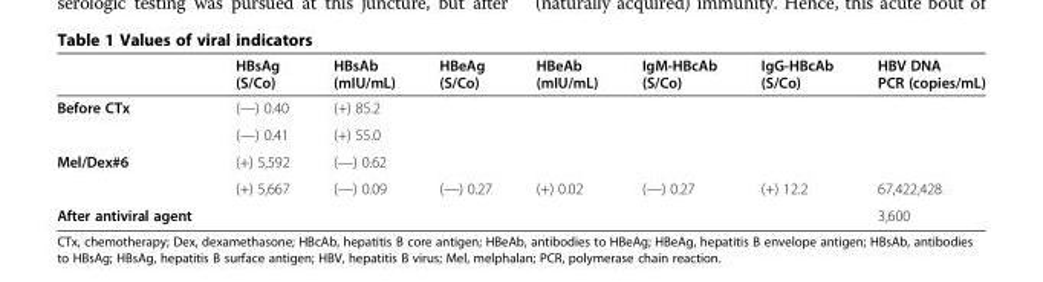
<table><thead><tr><td></td><td>HBsAg (S/Co)</td><td>HBsAb (mIU/mL)</td><td>HBeAg (S/Co)</td><td>HBeAb (mIU/mL)</td><td>IgM-HBcAb (S/Co)</td><td>IgG-HBcAb (S/Co)</td><td>HBV DNA PCR (copies/mL)</td></tr></thead><tbody><tr><td rowspan="2">Before CTx</td><td>(—) 0.40</td><td>(+) 85.2</td><td></td><td></td><td></td><td></td><td></td></tr><tr><td>(—) 0.41</td><td>(+) 55.0</td><td></td><td></td><td></td><td></td><td></td></tr><tr><td rowspan="2">Mel/Dex#6</td><td>(+) 5,592</td><td>(—) 0.62</td><td></td><td></td><td></td><td></td><td></td></tr><tr><td>(+) 5,667</td><td>(—) 0.09</td><td>(—) 0.27</td><td>(+) 0.02</td><td>(—) 0.27</td><td>(+) 12.2</td><td>67,422,428</td></tr><tr><td>After antiviral agent</td><td></td><td></td><td></td><td></td><td></td><td></td><td>3,600</td></tr></tbody></table>